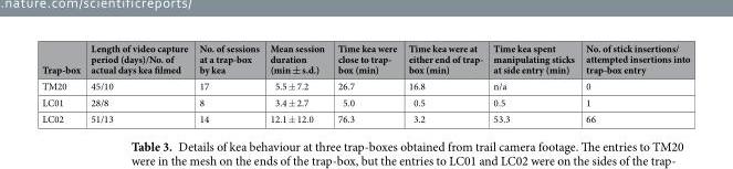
<table><thead><tr><td>Trap-box</td><td>Length of video capture period (days)/No. of actual days kea filmed</td><td>No. of sessions at a trap-box by kea</td><td>Mean session duration (min ± s.d.)</td><td>Time kea were close to trap- box (min)</td><td>Time kea were at either end of trap- box (min)</td><td>Time kea spent manipulating sticks at side entry (min)</td><td>No. of stick insertions/ attempted insertions into trap-box entry</td></tr></thead><tbody><tr><td>TM20</td><td>45/10</td><td>17</td><td>5.5 ± 7.2</td><td>26.7</td><td>16.8</td><td>n/a</td><td>0</td></tr><tr><td>LC01</td><td>28/8</td><td>8</td><td>3.4 ± 2.7</td><td>5.0</td><td>0.5</td><td>0.5</td><td>1</td></tr><tr><td>LC02</td><td>51/13</td><td>14</td><td>12.1 ± 12.0</td><td>76.3</td><td>3.2</td><td>53.3</td><td>66</td></tr></tbody></table>